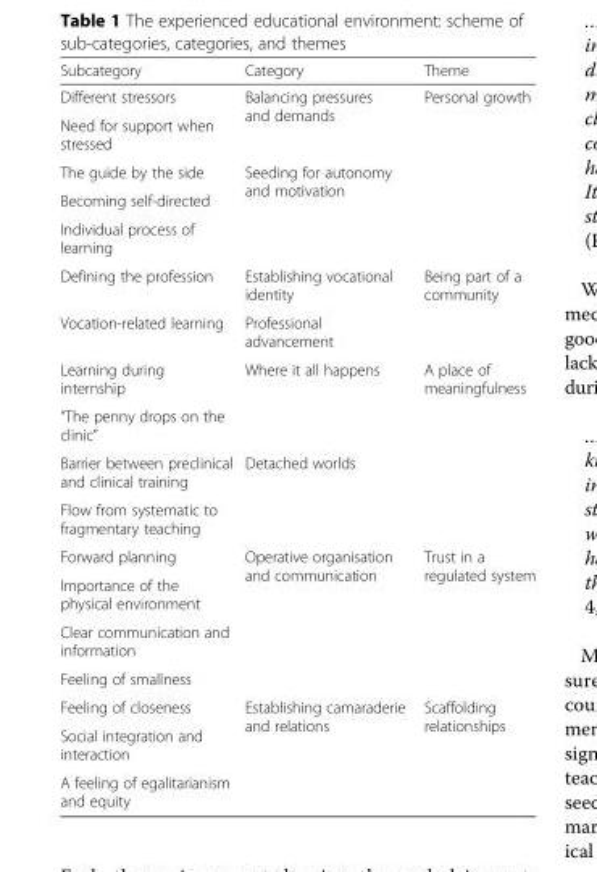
<table><thead><tr><td>Subcategory</td><td>Category</td><td>Theme</td></tr></thead><tbody><tr><td>Different stressors</td><td rowspan="2">Balancing pressures and demands</td><td rowspan="5">Personal growth</td></tr><tr><td>Need for support when stressed</td></tr><tr><td>The guide by the side</td><td rowspan="3">Seeding for autonomy and motivation</td></tr><tr><td>Becoming self-directed</td></tr><tr><td>Individual process of learning</td></tr><tr><td>Defining the profession</td><td>Establishing vocational identity</td><td rowspan="2">Being part of a community</td></tr><tr><td>Vocation-related learning</td><td>Professional advancement</td></tr><tr><td>Learning during internship</td><td rowspan="2">Where it all happens</td><td rowspan="4">A place of meaningfulness</td></tr><tr><td>“The penny drops on the clinic”</td></tr><tr><td>Barrier between preclinical and clinical training</td><td rowspan="2">Detached worlds</td></tr><tr><td>Flow from systematic to fragmentary teaching</td></tr><tr><td>Forward planning</td><td rowspan="4">Operative organisation and communication</td><td rowspan="4">Trust in a regulated system</td></tr><tr><td>Importance of the physical environment</td></tr><tr><td>Clear communication and information</td></tr><tr><td>Feeling of smallness</td></tr><tr><td>Feeling of closeness</td><td rowspan="3">Establishing camaraderie and relations</td><td rowspan="3">Scaffolding relationships</td></tr><tr><td>Social integration and interaction</td></tr><tr><td>A feeling of egalitarianism and equity</td></tr></tbody></table>